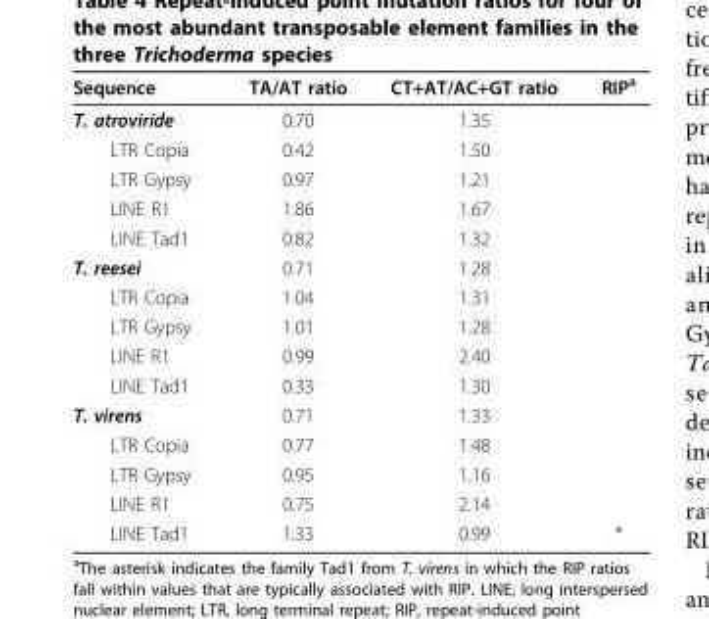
<table><thead><tr><td>Sequence</td><td>TA/AT ratio</td><td>CT+AT/AC+GT ratio</td><td>RIP<sup>a</sup></td></tr></thead><tbody><tr><td>T. atroviride</td><td>0.70</td><td>1.35</td><td></td></tr><tr><td>LTR Copia</td><td>0.42</td><td>1.50</td><td></td></tr><tr><td>LTR Gypsy</td><td>0.97</td><td>1.21</td><td></td></tr><tr><td>LINE R1</td><td>1.86</td><td>1.67</td><td></td></tr><tr><td>LINE Tad1</td><td>0.82</td><td>1.32</td><td></td></tr><tr><td>T. reesei</td><td>0.71</td><td>1.28</td><td></td></tr><tr><td>LTR Copia</td><td>1.04</td><td>1.31</td><td></td></tr><tr><td>LTR Gypsy</td><td>1.01</td><td>1.28</td><td></td></tr><tr><td>LINE R1</td><td>0.99</td><td>2.40</td><td></td></tr><tr><td>LINE Tad1</td><td>0.33</td><td>1.30</td><td></td></tr><tr><td>T. virens</td><td>0.71</td><td>1.33</td><td></td></tr><tr><td>LTR Copia</td><td>0.77</td><td>1.48</td><td></td></tr><tr><td>LTR Gypsy</td><td>0.95</td><td>1.16</td><td></td></tr><tr><td>LINE R1</td><td>0.75</td><td>2.14</td><td></td></tr><tr><td>LINE Tad1</td><td>1.33</td><td>0.99</td><td>*</td></tr></tbody></table>